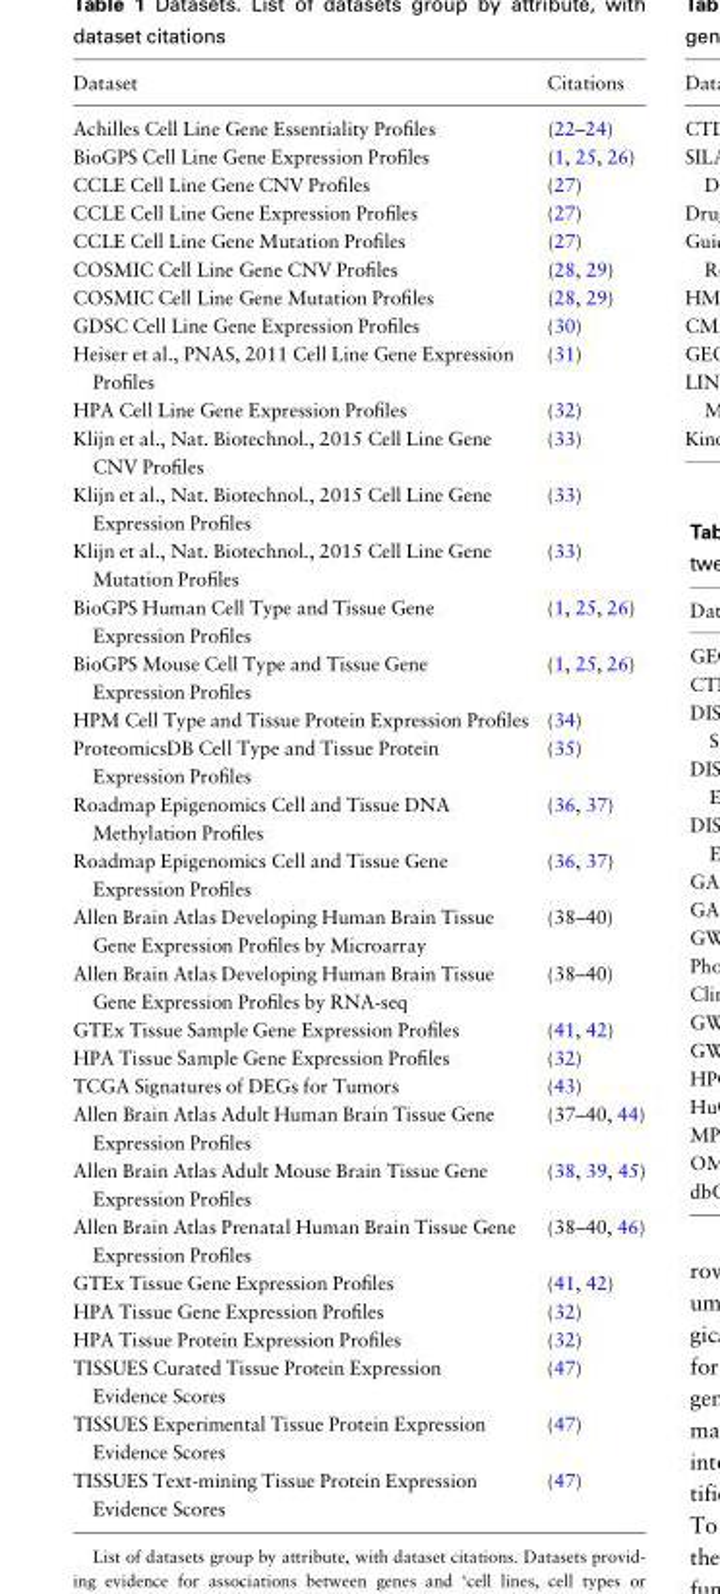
<table><thead><tr><td>Dataset</td><td>Citations</td></tr></thead><tbody><tr><td>Achilles Cell Line Gene Essentiality Profiles</td><td>(22–24)</td></tr><tr><td>BioGPS Cell Line Gene Expression Profiles</td><td>(1, 25, 26)</td></tr><tr><td>CCLE Cell Line Gene CNV Profiles</td><td>(27)</td></tr><tr><td>CCLE Cell Line Gene Expression Profiles</td><td>(27)</td></tr><tr><td>CCLE Cell Line Gene Mutation Profiles</td><td>(27)</td></tr><tr><td>COSMIC Cell Line Gene CNV Profiles</td><td>(28, 29)</td></tr><tr><td>COSMIC Cell Line Gene Mutation Profiles</td><td>(28, 29)</td></tr><tr><td>GDSC Cell Line Gene Expression Profiles</td><td>(30)</td></tr><tr><td>Heiser et al., PNAS, 2011 Cell Line Gene Expression Profiles</td><td>(31)</td></tr><tr><td>HPA Cell Line Gene Expression Profiles</td><td>(32)</td></tr><tr><td>Klijn et al., Nat. Biotechnol., 2015 Cell Line Gene CNV Profiles</td><td>(33)</td></tr><tr><td>Klijn et al., Nat. Biotechnol., 2015 Cell Line Gene Expression Profiles</td><td>(33)</td></tr><tr><td>Klijn et al., Nat. Biotechnol., 2015 Cell Line Gene Mutation Profiles</td><td>(33)</td></tr><tr><td>BioGPS Human Cell Type and Tissue Gene Expression Profiles</td><td>(1, 25, 26)</td></tr><tr><td>BioGPS Mouse Cell Type and Tissue Gene Expression Profiles</td><td>(1, 25, 26)</td></tr><tr><td>HPM Cell Type and Tissue Protein Expression Profiles</td><td>(34)</td></tr><tr><td>ProteomicsDB Cell Type and Tissue Protein Expression Profiles</td><td>(35)</td></tr><tr><td>Roadmap Epigenomics Cell and Tissue DNA Methylation Profiles</td><td>(36, 37)</td></tr><tr><td>Roadmap Epigenomics Cell and Tissue Gene Expression Profiles</td><td>(36, 37)</td></tr><tr><td>Allen Brain Atlas Developing Human Brain Tissue Gene Expression Profiles by Microarray</td><td>(38–40)</td></tr><tr><td>Allen Brain Atlas Developing Human Brain Tissue Gene Expression Profiles by RNA-seq</td><td>(38–40)</td></tr><tr><td>GTEx Tissue Sample Gene Expression Profiles</td><td>(41, 42)</td></tr><tr><td>HPA Tissue Sample Gene Expression Profiles</td><td>(32)</td></tr><tr><td>TCGA Signatures of DEGs for Tumors</td><td>(43)</td></tr><tr><td>Allen Brain Atlas Adult Human Brain Tissue Gene Expression Profiles</td><td>(37–40, 44)</td></tr><tr><td>Allen Brain Atlas Adult Mouse Brain Tissue Gene Expression Profiles</td><td>(38, 39, 45)</td></tr><tr><td>Allen Brain Atlas Prenatal Human Brain Tissue Gene Expression Profiles</td><td>(38–40, 46)</td></tr><tr><td>GTEx Tissue Gene Expression Profiles</td><td>(41, 42)</td></tr><tr><td>HPA Tissue Gene Expression Profiles</td><td>(32)</td></tr><tr><td>HPA Tissue Protein Expression Profiles</td><td>(32)</td></tr><tr><td>TISSUES Curated Tissue Protein Expression Evidence Scores</td><td>(47)</td></tr><tr><td>TISSUES Experimental Tissue Protein Expression Evidence Scores</td><td>(47)</td></tr><tr><td>TISSUES Text-mining Tissue Protein Expression Evidence Scores</td><td>(47)</td></tr></tbody></table>